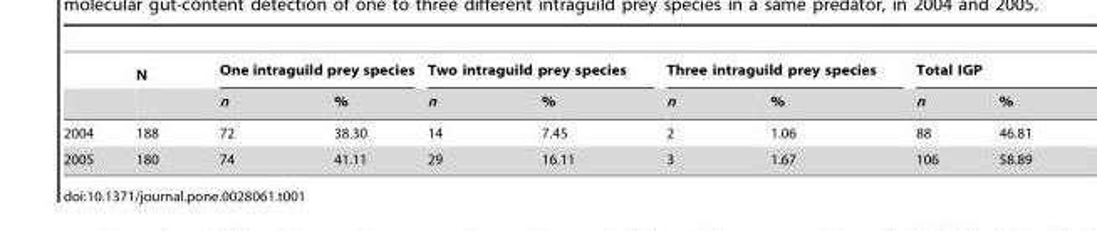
<table><thead><tr><td rowspan="2"></td><td rowspan="2">N</td><td colspan="2">One intraguild prey species</td><td colspan="2">Two intraguild prey species</td><td colspan="2">Three intraguild prey species</td><td colspan="2">Total IGP</td></tr><tr><td>n</td><td>%</td><td>n</td><td>%</td><td>n</td><td>%</td><td>n</td><td>%</td></tr></thead><tbody><tr><td>2004</td><td>188</td><td>72</td><td>38.30</td><td>14</td><td>7.45</td><td>2</td><td>1.06</td><td>88</td><td>46.81</td></tr><tr><td>2005</td><td>180</td><td>74</td><td>41.11</td><td>29</td><td>16.11</td><td>3</td><td>1.67</td><td>106</td><td>58.89</td></tr></tbody></table>